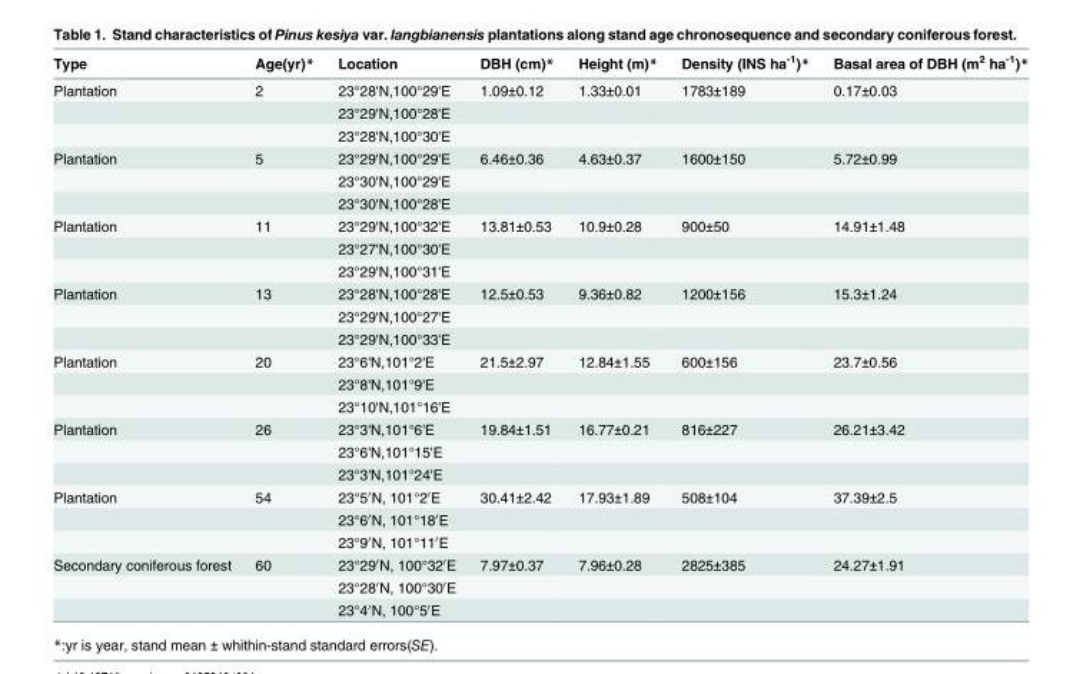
<table><thead><tr><td>Type</td><td>Age(yr)*</td><td>Location</td><td>DBH (cm)*</td><td>Height (m)*</td><td>Density (INS ha<sup>-1</sup>)*</td><td>Basal area of DBH (m<sup>2</sup> ha<sup>-1</sup>)*</td></tr></thead><tbody><tr><td rowspan="3">Plantation</td><td>2</td><td>23°28&#x27;N,100°29&#x27;E</td><td>1.09±0.12</td><td>1.33±0.01</td><td>1783±189</td><td>0.17±0.03</td></tr><tr><td></td><td>23°29&#x27;N,100°28&#x27;E</td><td></td><td></td><td></td><td></td></tr><tr><td></td><td>23°28&#x27;N,100°30&#x27;E</td><td></td><td></td><td></td><td></td></tr><tr><td rowspan="3">Plantation</td><td>5</td><td>23°29&#x27;N,100°29&#x27;E</td><td>6.46±0.36</td><td>4.63±0.37</td><td>1600±150</td><td>5.72±0.99</td></tr><tr><td></td><td>23°30&#x27;N,100°29&#x27;E</td><td></td><td></td><td></td><td></td></tr><tr><td></td><td>23°30&#x27;N,100°28&#x27;E</td><td></td><td></td><td></td><td></td></tr><tr><td rowspan="3">Plantation</td><td>11</td><td>23°29&#x27;N,100°32&#x27;E</td><td>13.81±0.53</td><td>10.9±0.28</td><td>900±50</td><td>14.91±1.48</td></tr><tr><td></td><td>23°27&#x27;N,100°30&#x27;E</td><td></td><td></td><td></td><td></td></tr><tr><td></td><td>23°29&#x27;N,100°31&#x27;E</td><td></td><td></td><td></td><td></td></tr><tr><td rowspan="3">Plantation</td><td>13</td><td>23°28&#x27;N,100°28&#x27;E</td><td>12.5±0.53</td><td>9.36±0.82</td><td>1200±156</td><td>15.3±1.24</td></tr><tr><td></td><td>23°29&#x27;N,100°27&#x27;E</td><td></td><td></td><td></td><td></td></tr><tr><td></td><td>23°29&#x27;N,100°33&#x27;E</td><td></td><td></td><td></td><td></td></tr><tr><td rowspan="3">Plantation</td><td>20</td><td>23°6&#x27;N,101°2&#x27;E</td><td>21.5±2.97</td><td>12.84±1.55</td><td>600±156</td><td>23.7±0.56</td></tr><tr><td></td><td>23°8&#x27;N,101°9&#x27;E</td><td></td><td></td><td></td><td></td></tr><tr><td></td><td>23°10&#x27;N,101°16&#x27;E</td><td></td><td></td><td></td><td></td></tr><tr><td rowspan="3">Plantation</td><td>26</td><td>23°3&#x27;N,101°6&#x27;E</td><td>19.84±1.51</td><td>16.77±0.21</td><td>816±227</td><td>26.21±3.42</td></tr><tr><td></td><td>23°6&#x27;N,101°15&#x27;E</td><td></td><td></td><td></td><td></td></tr><tr><td></td><td>23°3&#x27;N,101°24&#x27;E</td><td></td><td></td><td></td><td></td></tr><tr><td rowspan="3">Plantation</td><td>54</td><td>23°5′N, 101°2′E</td><td>30.41±2.42</td><td>17.93±1.89</td><td>508±104</td><td>37.39±2.5</td></tr><tr><td></td><td>23°6′N, 101°18′E</td><td></td><td></td><td></td><td></td></tr><tr><td></td><td>23°9′N, 101°11′E</td><td></td><td></td><td></td><td></td></tr><tr><td rowspan="3">Secondary coniferous forest</td><td>60</td><td>23°29′N, 100°32′E</td><td>7.97±0.37</td><td>7.96±0.28</td><td>2825±385</td><td>24.27±1.91</td></tr><tr><td></td><td>23°28′N, 100°30′E</td><td></td><td></td><td></td><td></td></tr><tr><td></td><td>23°4′N, 100°5′E</td><td></td><td></td><td></td><td></td></tr></tbody></table>